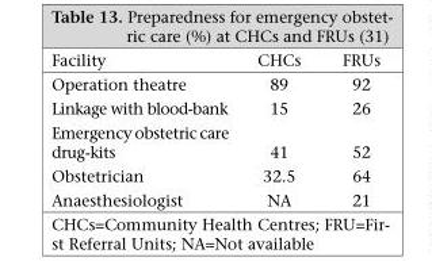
<table><thead><tr><td>Facility</td><td>CHCs</td><td>FRUs</td></tr></thead><tbody><tr><td>Operation theatre</td><td>89</td><td>92</td></tr><tr><td>Linkage with blood-bank</td><td>15</td><td>26</td></tr><tr><td>Emergency obstetric care drug-kits</td><td>41</td><td>52</td></tr><tr><td>Obstetrician</td><td>32.5</td><td>64</td></tr><tr><td>Anaesthesiologist</td><td>NA</td><td>21</td></tr></tbody></table>